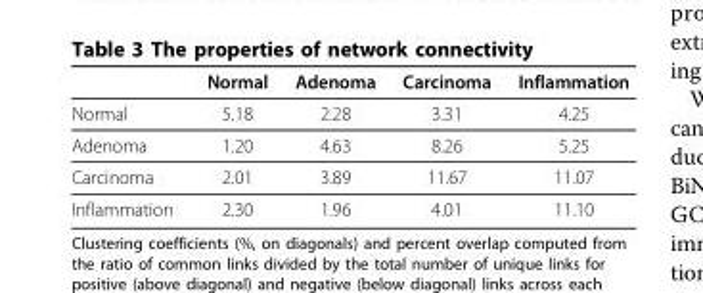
<table><thead><tr><td></td><td>Normal</td><td>Adenoma</td><td>Carcinoma</td><td>Inflammation</td></tr></thead><tbody><tr><td>Normal</td><td>5.18</td><td>2.28</td><td>3.31</td><td>4.25</td></tr><tr><td>Adenoma</td><td>1.20</td><td>4.63</td><td>8.26</td><td>5.25</td></tr><tr><td>Carcinoma</td><td>2.01</td><td>3.89</td><td>11.67</td><td>11.07</td></tr><tr><td>Inflammation</td><td>2.30</td><td>1.96</td><td>4.01</td><td>11.10</td></tr></tbody></table>